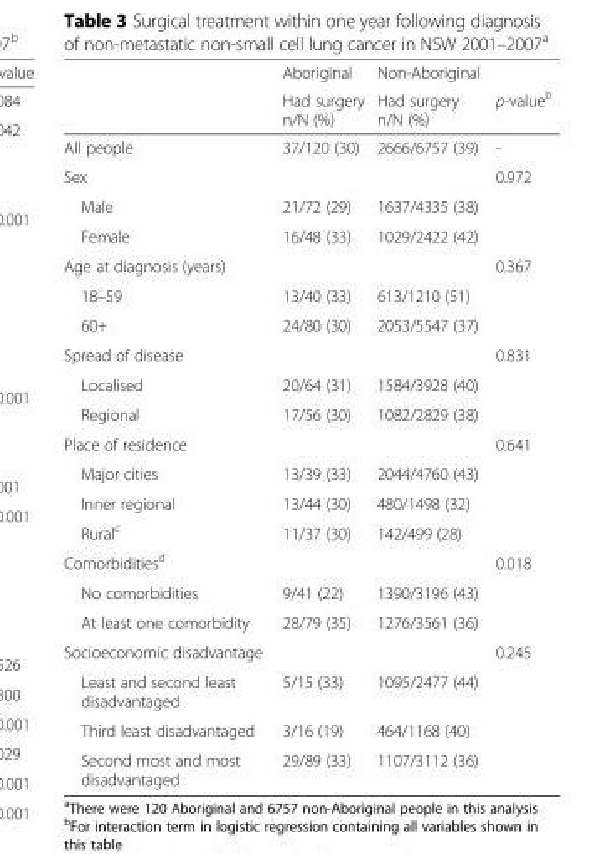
<table><thead><tr><td rowspan="2"></td><td rowspan="2">Aboriginal Had surgery n/N (%)</td><td rowspan="2">Non-Aboriginal Had surgery n/N (%)</td><td rowspan="2">p-value<sup>b</sup></td></tr><tr></tr></thead><tbody><tr><td>All people</td><td>37/120 (30)</td><td>2666/6757 (39)</td><td>-</td></tr><tr><td>Sex</td><td></td><td></td><td>0.972</td></tr><tr><td>Male</td><td>21/72 (29)</td><td>1637/4335 (38)</td><td></td></tr><tr><td>Female</td><td>16/48 (33)</td><td>1029/2422 (42)</td><td></td></tr><tr><td>Age at diagnosis (years)</td><td></td><td></td><td>0.367</td></tr><tr><td>18–59</td><td>13/40 (33)</td><td>613/1210 (51)</td><td></td></tr><tr><td>60+</td><td>24/80 (30)</td><td>2053/5547 (37)</td><td></td></tr><tr><td>Spread of disease</td><td></td><td></td><td>0.831</td></tr><tr><td>Localised</td><td>20/64 (31)</td><td>1584/3928 (40)</td><td></td></tr><tr><td>Regional</td><td>17/56 (30)</td><td>1082/2829 (38)</td><td></td></tr><tr><td>Place of residence</td><td></td><td></td><td>0.641</td></tr><tr><td>Major cities</td><td>13/39 (33)</td><td>2044/4760 (43)</td><td></td></tr><tr><td>Inner regional</td><td>13/44 (30)</td><td>480/1498 (32)</td><td></td></tr><tr><td>Rural<sup>c</sup></td><td>11/37 (30)</td><td>142/499 (28)</td><td></td></tr><tr><td>Comorbidities<sup>d</sup></td><td></td><td></td><td>0.018</td></tr><tr><td>No comorbidities</td><td>9/41 (22)</td><td>1390/3196 (43)</td><td></td></tr><tr><td>At least one comorbidity</td><td>28/79 (35)</td><td>1276/3561 (36)</td><td></td></tr><tr><td>Socioeconomic disadvantage</td><td></td><td></td><td>0.245</td></tr><tr><td>Least and second least disadvantaged</td><td>5/15 (33)</td><td>1095/2477 (44)</td><td></td></tr><tr><td>Third least disadvantaged</td><td>3/16 (19)</td><td>464/1168 (40)</td><td></td></tr><tr><td>Second most and most disadvantaged</td><td>29/89 (33)</td><td>1107/3112 (36)</td><td></td></tr></tbody></table>